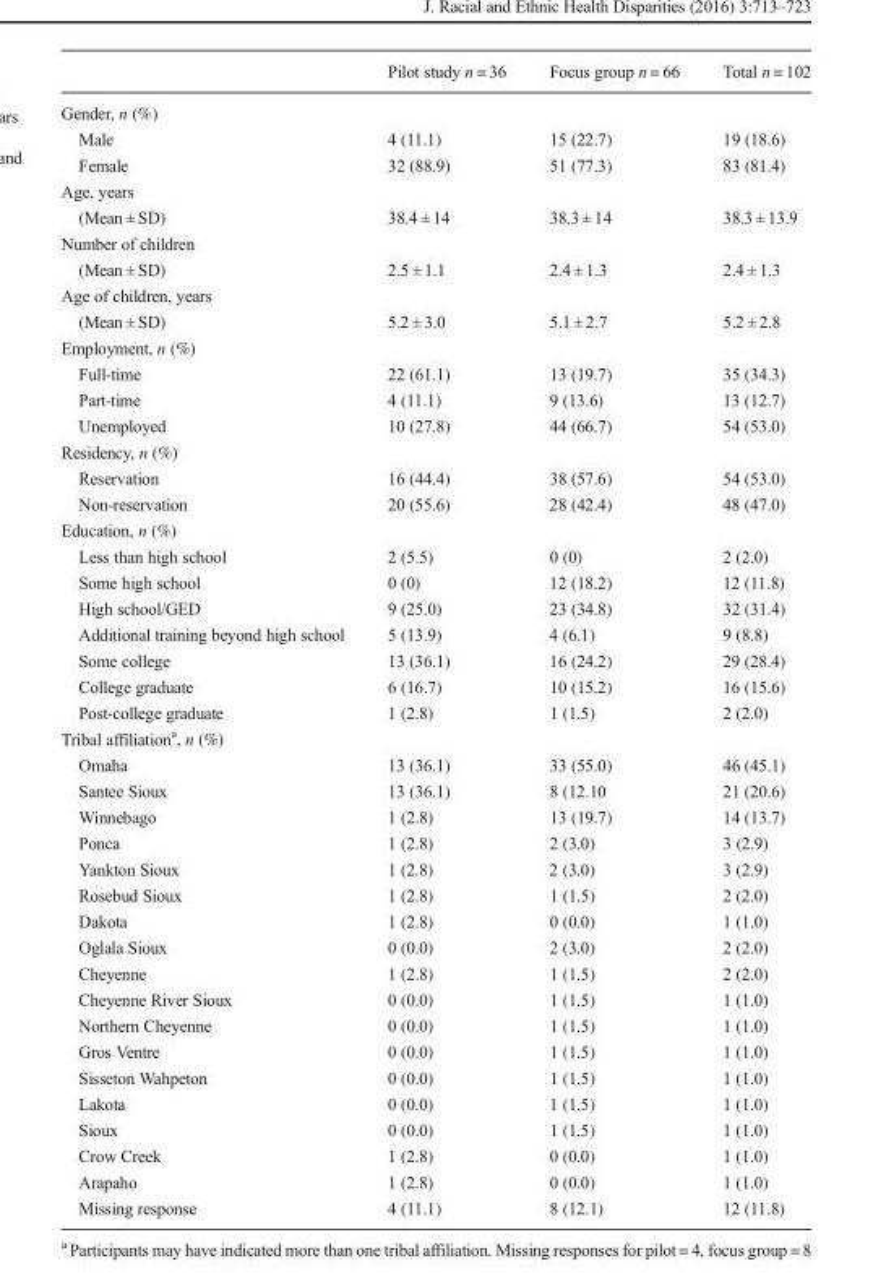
<table><thead><tr><td></td><td>Pilot study n = 36</td><td>Focus group n = 66</td><td>Total n = 102</td></tr></thead><tbody><tr><td colspan="4">Gender, n (%)</td></tr><tr><td>Male</td><td>4 (11.1)</td><td>15 (22.7)</td><td>19 (18.6)</td></tr><tr><td>Female</td><td>32 (88.9)</td><td>51 (77.3)</td><td>83 (81.4)</td></tr><tr><td colspan="4">Age, years</td></tr><tr><td>(Mean ± SD)</td><td>38.4 ± 14</td><td>38.3 ± 14</td><td>38.3 ± 13.9</td></tr><tr><td colspan="4">Number of children</td></tr><tr><td>(Mean ± SD)</td><td>2.5 ± 1.1</td><td>2.4 ± 1.3</td><td>2.4 ± 1.3</td></tr><tr><td colspan="4">Age of children, years</td></tr><tr><td>(Mean ± SD)</td><td>5.2 ± 3.0</td><td>5.1 ± 2.7</td><td>5.2 ± 2.8</td></tr><tr><td colspan="4">Employment, n (%)</td></tr><tr><td>Full-time</td><td>22 (61.1)</td><td>13 (19.7)</td><td>35 (34.3)</td></tr><tr><td>Part-time</td><td>4 (11.1)</td><td>9 (13.6)</td><td>13 (12.7)</td></tr><tr><td>Unemployed</td><td>10 (27.8)</td><td>44 (66.7)</td><td>54 (53.0)</td></tr><tr><td colspan="4">Residency, n (%)</td></tr><tr><td>Reservation</td><td>16 (44.4)</td><td>38 (57.6)</td><td>54 (53.0)</td></tr><tr><td>Non-reservation</td><td>20 (55.6)</td><td>28 (42.4)</td><td>48 (47.0)</td></tr><tr><td colspan="4">Education, n (%)</td></tr><tr><td>Less than high school</td><td>2 (5.5)</td><td>0 (0)</td><td>2 (2.0)</td></tr><tr><td>Some high school</td><td>0 (0)</td><td>12 (18.2)</td><td>12 (11.8)</td></tr><tr><td>High school/GED</td><td>9 (25.0)</td><td>23 (34.8)</td><td>32 (31.4)</td></tr><tr><td>Additional training beyond high school</td><td>5 (13.9)</td><td>4 (6.1)</td><td>9 (8.8)</td></tr><tr><td>Some college</td><td>13 (36.1)</td><td>16 (24.2)</td><td>29 (28.4)</td></tr><tr><td>College graduate</td><td>6 (16.7)</td><td>10 (15.2)</td><td>16 (15.6)</td></tr><tr><td>Post-college graduate</td><td>1 (2.8)</td><td>1 (1.5)</td><td>2 (2.0)</td></tr><tr><td colspan="4">Tribal affiliation<sup>a</sup>, n (%)</td></tr><tr><td>Omaha</td><td>13 (36.1)</td><td>33 (55.0)</td><td>46 (45.1)</td></tr><tr><td>Santee Sioux</td><td>13 (36.1)</td><td>8 (12.10</td><td>21 (20.6)</td></tr><tr><td>Winnebago</td><td>1 (2.8)</td><td>13 (19.7)</td><td>14 (13.7)</td></tr><tr><td>Ponca</td><td>1 (2.8)</td><td>2 (3.0)</td><td>3 (2.9)</td></tr><tr><td>Yankton Sioux</td><td>1 (2.8)</td><td>2 (3.0)</td><td>3 (2.9)</td></tr><tr><td>Rosebud Sioux</td><td>1 (2.8)</td><td>1 (1.5)</td><td>2 (2.0)</td></tr><tr><td>Dakota</td><td>1 (2.8)</td><td>0 (0.0)</td><td>1 (1.0)</td></tr><tr><td>Oglala Sioux</td><td>0 (0.0)</td><td>2 (3.0)</td><td>2 (2.0)</td></tr><tr><td>Cheyenne</td><td>1 (2.8)</td><td>1 (1.5)</td><td>2 (2.0)</td></tr><tr><td>Cheyenne River Sioux</td><td>0 (0.0)</td><td>1 (1.5)</td><td>1 (1.0)</td></tr><tr><td>Northern Cheyenne</td><td>0 (0.0)</td><td>1 (1.5)</td><td>1 (1.0)</td></tr><tr><td>Gros Ventre</td><td>0 (0.0)</td><td>1 (1.5)</td><td>1 (1.0)</td></tr><tr><td>Sisseton Wahpeton</td><td>0 (0.0)</td><td>1 (1.5)</td><td>1 (1.0)</td></tr><tr><td>Lakota</td><td>0 (0.0)</td><td>1 (1.5)</td><td>1 (1.0)</td></tr><tr><td>Sioux</td><td>0 (0.0)</td><td>1 (1.5)</td><td>1 (1.0)</td></tr><tr><td>Crow Creek</td><td>1 (2.8)</td><td>0 (0.0)</td><td>1 (1.0)</td></tr><tr><td>Arapaho</td><td>1 (2.8)</td><td>0 (0.0)</td><td>1 (1.0)</td></tr><tr><td>Missing response</td><td>4 (11.1)</td><td>8 (12.1)</td><td>12 (11.8)</td></tr></tbody></table>